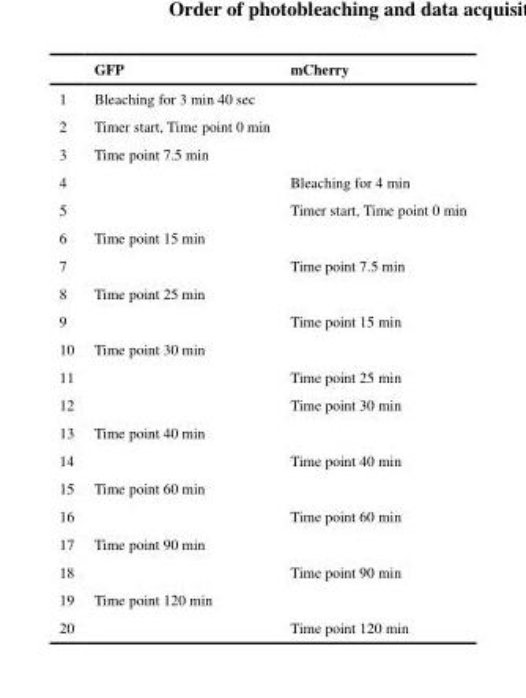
<table><thead><tr><td></td><td>GFP</td><td>mCherry</td></tr></thead><tbody><tr><td>1</td><td>Bleaching for 3 min 40 sec</td><td></td></tr><tr><td>2</td><td>Timer start, Time point 0 min</td><td></td></tr><tr><td>3</td><td>Time point 7.5 min</td><td></td></tr><tr><td>4</td><td></td><td>Bleaching for 4 min</td></tr><tr><td>5</td><td></td><td>Timer start, Time point 0 min</td></tr><tr><td>6</td><td>Time point 15 min</td><td></td></tr><tr><td>7</td><td></td><td>Time point 7.5 min</td></tr><tr><td>8</td><td>Time point 25 min</td><td></td></tr><tr><td>9</td><td></td><td>Time point 15 min</td></tr><tr><td>10</td><td>Time point 30 min</td><td></td></tr><tr><td>11</td><td></td><td>Time point 25 min</td></tr><tr><td>12</td><td></td><td>Time point 30 min</td></tr><tr><td>13</td><td>Time point 40 min</td><td></td></tr><tr><td>14</td><td></td><td>Time point 40 min</td></tr><tr><td>15</td><td>Time point 60 min</td><td></td></tr><tr><td>16</td><td></td><td>Time point 60 min</td></tr><tr><td>17</td><td>Time point 90 min</td><td></td></tr><tr><td>18</td><td></td><td>Time point 90 min</td></tr><tr><td>19</td><td>Time point 120 min</td><td></td></tr><tr><td>20</td><td></td><td>Time point 120 min</td></tr></tbody></table>